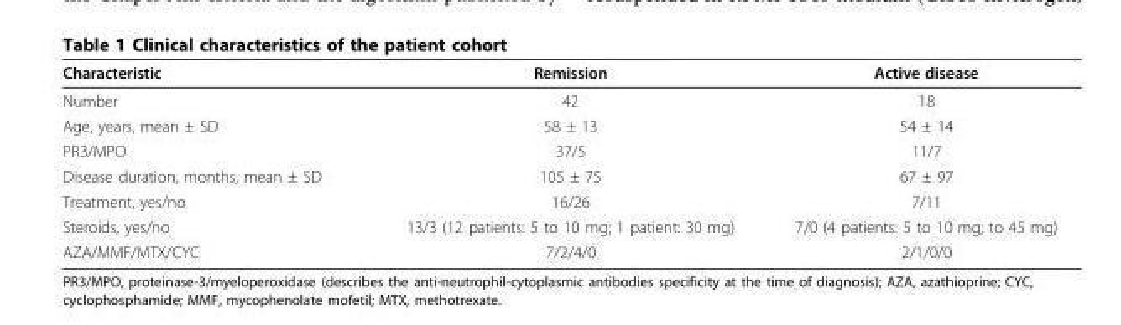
<table><thead><tr><td>Characteristic</td><td>Remission</td><td>Active disease</td></tr></thead><tbody><tr><td>Number</td><td>42</td><td>18</td></tr><tr><td>Age, years, mean ± SD</td><td>58 ± 13</td><td>54 ± 14</td></tr><tr><td>PR3/MPO</td><td>37/5</td><td>11/7</td></tr><tr><td>Disease duration, months, mean ± SD</td><td>105 ± 75</td><td>67 ± 97</td></tr><tr><td>Treatment, yes/no</td><td>16/26</td><td>7/11</td></tr><tr><td>Steroids, yes/no</td><td>13/3 (12 patients: 5 to 10 mg; 1 patient: 30 mg)</td><td>7/0 (4 patients: 5 to 10 mg; to 45 mg)</td></tr><tr><td>AZA/MMF/MTX/CYC</td><td>7/2/4/0</td><td>2/1/0/0</td></tr></tbody></table>